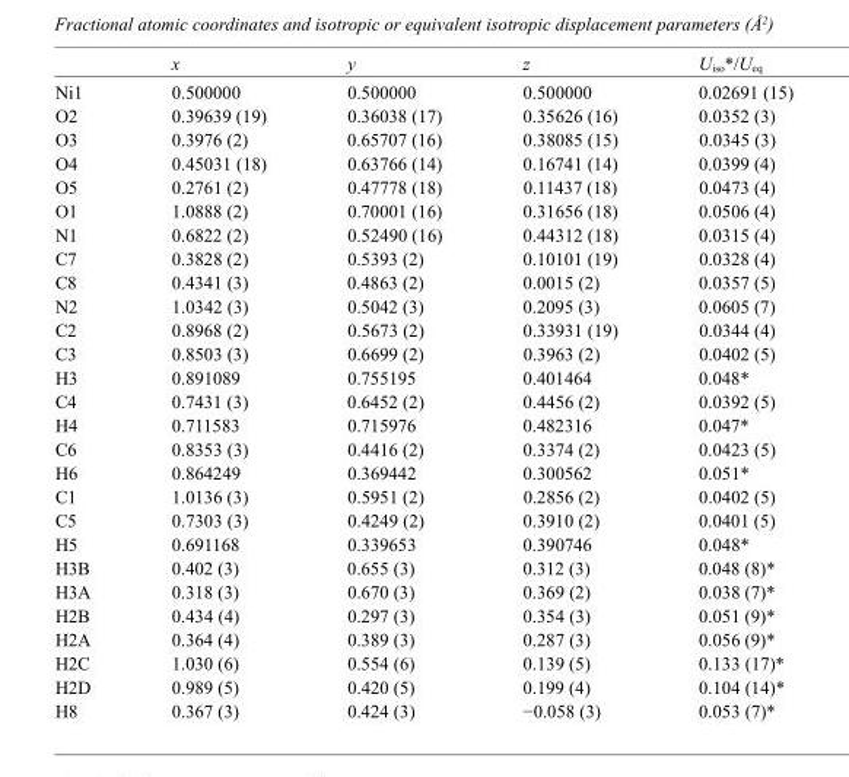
<table><thead><tr><td></td><td>x</td><td>y</td><td>z</td><td>U<sub>iso</sub>*/U<sub>eq</sub></td></tr></thead><tbody><tr><td>Ni1</td><td>0.500000</td><td>0.500000</td><td>0.500000</td><td>0.02691 (15)</td></tr><tr><td>O2</td><td>0.39639 (19)</td><td>0.36038 (17)</td><td>0.35626 (16)</td><td>0.0352 (3)</td></tr><tr><td>O3</td><td>0.3976 (2)</td><td>0.65707 (16)</td><td>0.38085 (15)</td><td>0.0345 (3)</td></tr><tr><td>O4</td><td>0.45031 (18)</td><td>0.63766 (14)</td><td>0.16741 (14)</td><td>0.0399 (4)</td></tr><tr><td>O5</td><td>0.2761 (2)</td><td>0.47778 (18)</td><td>0.11437 (18)</td><td>0.0473 (4)</td></tr><tr><td>O1</td><td>1.0888 (2)</td><td>0.70001 (16)</td><td>0.31656 (18)</td><td>0.0506 (4)</td></tr><tr><td>N1</td><td>0.6822 (2)</td><td>0.52490 (16)</td><td>0.44312 (18)</td><td>0.0315 (4)</td></tr><tr><td>C7</td><td>0.3828 (2)</td><td>0.5393 (2)</td><td>0.10101 (19)</td><td>0.0328 (4)</td></tr><tr><td>C8</td><td>0.4341 (3)</td><td>0.4863 (2)</td><td>0.0015 (2)</td><td>0.0357 (5)</td></tr><tr><td>N2</td><td>1.0342 (3)</td><td>0.5042 (3)</td><td>0.2095 (3)</td><td>0.0605 (7)</td></tr><tr><td>C2</td><td>0.8968 (2)</td><td>0.5673 (2)</td><td>0.33931 (19)</td><td>0.0344 (4)</td></tr><tr><td>C3</td><td>0.8503 (3)</td><td>0.6699 (2)</td><td>0.3963 (2)</td><td>0.0402 (5)</td></tr><tr><td>H3</td><td>0.891089</td><td>0.755195</td><td>0.401464</td><td>0.048*</td></tr><tr><td>C4</td><td>0.7431 (3)</td><td>0.6452 (2)</td><td>0.4456 (2)</td><td>0.0392 (5)</td></tr><tr><td>H4</td><td>0.711583</td><td>0.715976</td><td>0.482316</td><td>0.047*</td></tr><tr><td>C6</td><td>0.8353 (3)</td><td>0.4416 (2)</td><td>0.3374 (2)</td><td>0.0423 (5)</td></tr><tr><td>H6</td><td>0.864249</td><td>0.369442</td><td>0.300562</td><td>0.051*</td></tr><tr><td>C1</td><td>1.0136 (3)</td><td>0.5951 (2)</td><td>0.2856 (2)</td><td>0.0402 (5)</td></tr><tr><td>C5</td><td>0.7303 (3)</td><td>0.4249 (2)</td><td>0.3910 (2)</td><td>0.0401 (5)</td></tr><tr><td>H5</td><td>0.691168</td><td>0.339653</td><td>0.390746</td><td>0.048*</td></tr><tr><td>H3B</td><td>0.402 (3)</td><td>0.655 (3)</td><td>0.312 (3)</td><td>0.048 (8)*</td></tr><tr><td>H3A</td><td>0.318 (3)</td><td>0.670 (3)</td><td>0.369 (2)</td><td>0.038 (7)*</td></tr><tr><td>H2B</td><td>0.434 (4)</td><td>0.297 (3)</td><td>0.354 (3)</td><td>0.051 (9)*</td></tr><tr><td>H2A</td><td>0.364 (4)</td><td>0.389 (3)</td><td>0.287 (3)</td><td>0.056 (9)*</td></tr><tr><td>H2C</td><td>1.030 (6)</td><td>0.554 (6)</td><td>0.139 (5)</td><td>0.133 (17)*</td></tr><tr><td>H2D</td><td>0.989 (5)</td><td>0.420 (5)</td><td>0.199 (4)</td><td>0.104 (14)*</td></tr><tr><td>H8</td><td>0.367 (3)</td><td>0.424 (3)</td><td>−0.058 (3)</td><td>0.053 (7)*</td></tr></tbody></table>